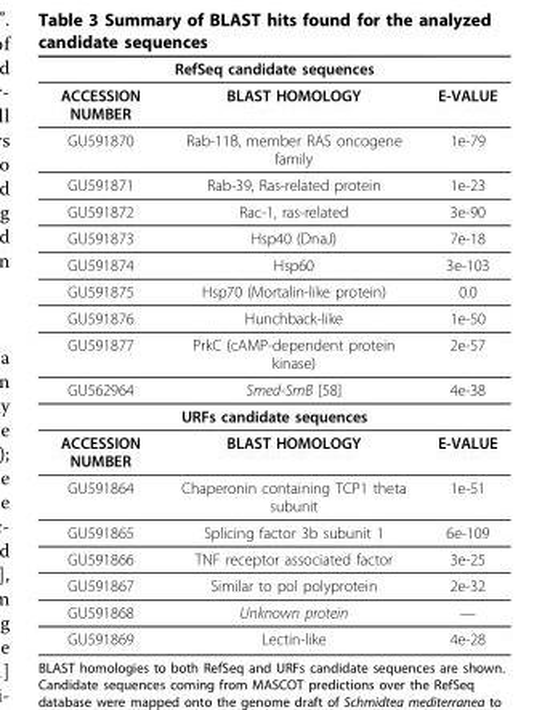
<table><thead><tr><td colspan="3">RefSeq candidate sequences</td></tr><tr><td>ACCESSION NUMBER</td><td>BLAST HOMOLOGY</td><td>E-VALUE</td></tr></thead><tbody><tr><td>GU591870</td><td>Rab-11B, member RAS oncogene family</td><td>1e-79</td></tr><tr><td>GU591871</td><td>Rab-39, Ras-related protein</td><td>1e-23</td></tr><tr><td>GU591872</td><td>Rac-1, ras-related</td><td>3e-90</td></tr><tr><td>GU591873</td><td>Hsp40 (DnaJ)</td><td>7e-18</td></tr><tr><td>GU591874</td><td>Hsp60</td><td>3e-103</td></tr><tr><td>GU591875</td><td>Hsp70 (Mortalin-like protein)</td><td>0.0</td></tr><tr><td>GU591876</td><td>Hunchback-like</td><td>1e-50</td></tr><tr><td>GU591877</td><td>PrkC (cAMP-dependent protein kinase)</td><td>2e-57</td></tr><tr><td>GU562964</td><td>Smed-SmB [58]</td><td>4e-38</td></tr><tr><td colspan="3">URFs candidate sequences</td></tr><tr><td>ACCESSION NUMBER</td><td>BLAST HOMOLOGY</td><td>E-VALUE</td></tr><tr><td>GU591864</td><td>Chaperonin containing TCP1 theta subunit</td><td>1e-51</td></tr><tr><td>GU591865</td><td>Splicing factor 3b subunit 1</td><td>6e-109</td></tr><tr><td>GU591866</td><td>TNF receptor associated factor</td><td>3e-25</td></tr><tr><td>GU591867</td><td>Similar to pol polyprotein</td><td>2e-32</td></tr><tr><td>GU591868</td><td>Unknown protein</td><td>—</td></tr><tr><td>GU591869</td><td>Lectin-like</td><td>4e-28</td></tr></tbody></table>